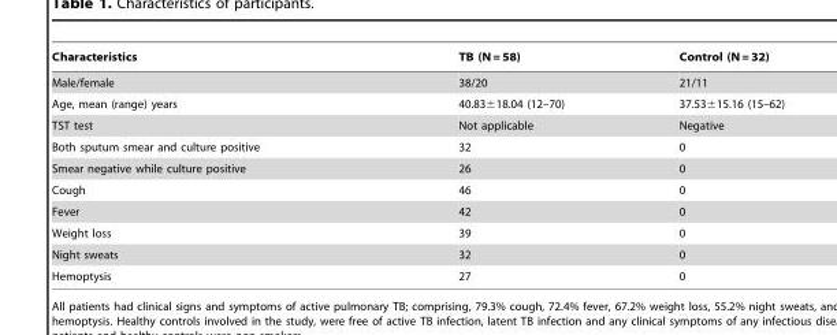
<table><thead><tr><td>Characteristics</td><td>TB (N = 58)</td><td>Control (N = 32)</td></tr></thead><tbody><tr><td>Male/female</td><td>38/20</td><td>21/11</td></tr><tr><td>Age, mean (range) years</td><td>40.83±18.04 (12–70)</td><td>37.53±15.16 (15–62)</td></tr><tr><td>TST test</td><td>Not applicable</td><td>Negative</td></tr><tr><td>Both sputum smear and culture positive</td><td>32</td><td>0</td></tr><tr><td>Smear negative while culture positive</td><td>26</td><td>0</td></tr><tr><td>Cough</td><td>46</td><td>0</td></tr><tr><td>Fever</td><td>42</td><td>0</td></tr><tr><td>Weight loss</td><td>39</td><td>0</td></tr><tr><td>Night sweats</td><td>32</td><td>0</td></tr><tr><td>Hemoptysis</td><td>27</td><td>0</td></tr></tbody></table>